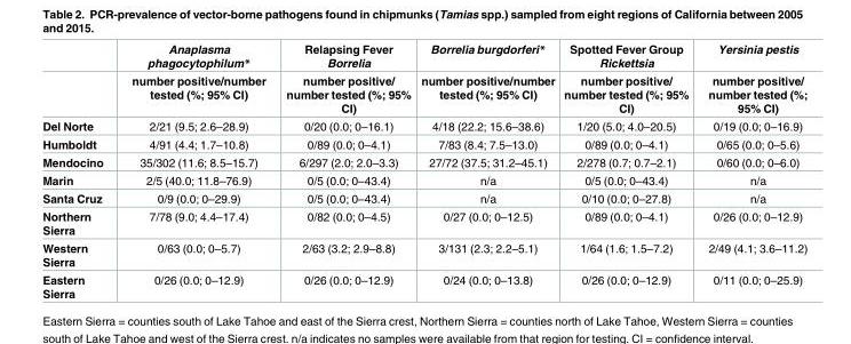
<table><thead><tr><td rowspan="2"></td><td rowspan="2">Anaplasma phagocytophilum* number positive/number tested (%; 95% CI)</td><td rowspan="2">Relapsing Fever Borrelia number positive/ number tested (%; 95% CI)</td><td rowspan="2">Borrelia burgdorferi* number positive/number tested (%; 95% CI)</td><td rowspan="2">Spotted Fever Group Rickettsia number positive/ number tested (%; 95% CI)</td><td rowspan="2">Yersinia pestis number positive/ number tested (%; 95% CI)</td></tr><tr></tr></thead><tbody><tr><td>Del Norte</td><td>2/21 (9.5; 2.6–28.9)</td><td>0/20 (0.0; 0–16.1)</td><td>4/18 (22.2; 15.6–38.6)</td><td>1/20 (5.0; 4.0–20.5)</td><td>0/19 (0.0; 0–16.9)</td></tr><tr><td>Humboldt</td><td>4/91 (4.4; 1.7–10.8)</td><td>0/89 (0.0; 0–4.1)</td><td>7/83 (8.4; 7.5–13.0)</td><td>0/89 (0.0; 0–4.1)</td><td>0/65 (0.0; 0–5.6)</td></tr><tr><td>Mendocino</td><td>35/302 (11.6; 8.5–15.7)</td><td>6/297 (2.0; 2.0–3.3)</td><td>27/72 (37.5; 31.2–45.1)</td><td>2/278 (0.7; 0.7–2.1)</td><td>0/60 (0.0; 0–6.0)</td></tr><tr><td>Marin</td><td>2/5 (40.0; 11.8–76.9)</td><td>0/5 (0.0; 0–43.4)</td><td>n/a</td><td>0/5 (0.0; 0–43.4)</td><td>n/a</td></tr><tr><td>Santa Cruz</td><td>0/9 (0.0; 0–29.9)</td><td>0/5 (0.0; 0–43.4)</td><td>n/a</td><td>0/10 (0.0; 0–27.8)</td><td>n/a</td></tr><tr><td>Northern Sierra</td><td>7/78 (9.0; 4.4–17.4)</td><td>0/82 (0.0; 0–4.5)</td><td>0/27 (0.0; 0–12.5)</td><td>0/89 (0.0; 0–4.1)</td><td>0/26 (0.0; 0–12.9)</td></tr><tr><td>Western Sierra</td><td>0/63 (0.0; 0–5.7)</td><td>2/63 (3.2; 2.9–8.8)</td><td>3/131 (2.3; 2.2–5.1)</td><td>1/64 (1.6; 1.5–7.2)</td><td>2/49 (4.1; 3.6–11.2)</td></tr><tr><td>Eastern Sierra</td><td>0/26 (0.0; 0–12.9)</td><td>0/26 (0.0; 0–12.9)</td><td>0/24 (0.0; 0–13.8)</td><td>0/26 (0.0; 0–12.9)</td><td>0/11 (0.0; 0–25.9)</td></tr></tbody></table>